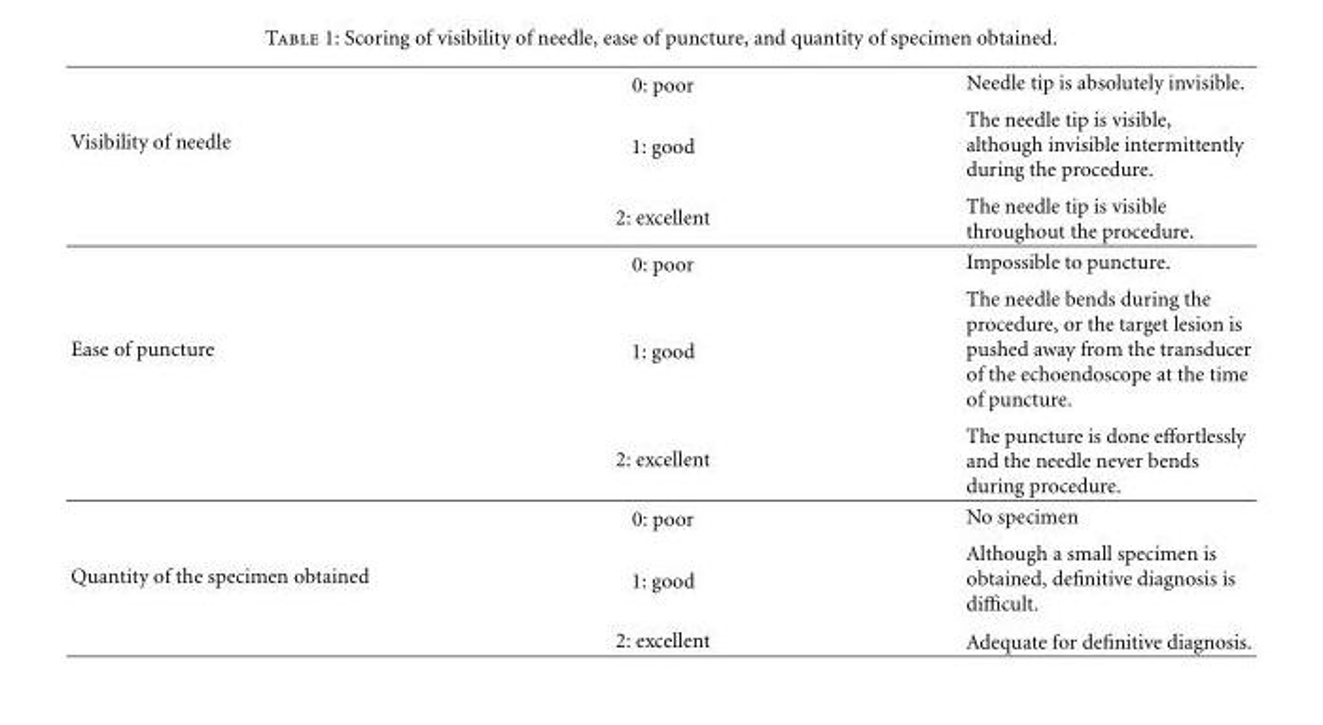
<table><tbody><tr><td rowspan="3">Visibility of needle</td><td>0: poor</td><td>Needle tip is absolutely invisible.</td></tr><tr><td>1: good</td><td>The needle tip is visible, although invisible intermittently during the procedure.</td></tr><tr><td>2: excellent</td><td>The needle tip is visible throughout the procedure.</td></tr><tr><td rowspan="3">Ease of puncture</td><td>0: poor</td><td>Impossible to puncture.</td></tr><tr><td>1: good</td><td>The needle bends during the procedure, or the target lesion is pushed away from the transducer of the echoendoscope at the time of puncture.</td></tr><tr><td>2: excellent</td><td>The puncture is done effortlessly and the needle never bends during procedure.</td></tr><tr><td rowspan="3">Quantity of the specimen obtained</td><td>0: poor</td><td>No specimen</td></tr><tr><td>1: good</td><td>Although a small specimen is obtained, definitive diagnosis is difficult.</td></tr><tr><td>2: excellent</td><td>Adequate for definitive diagnosis.</td></tr></tbody></table>